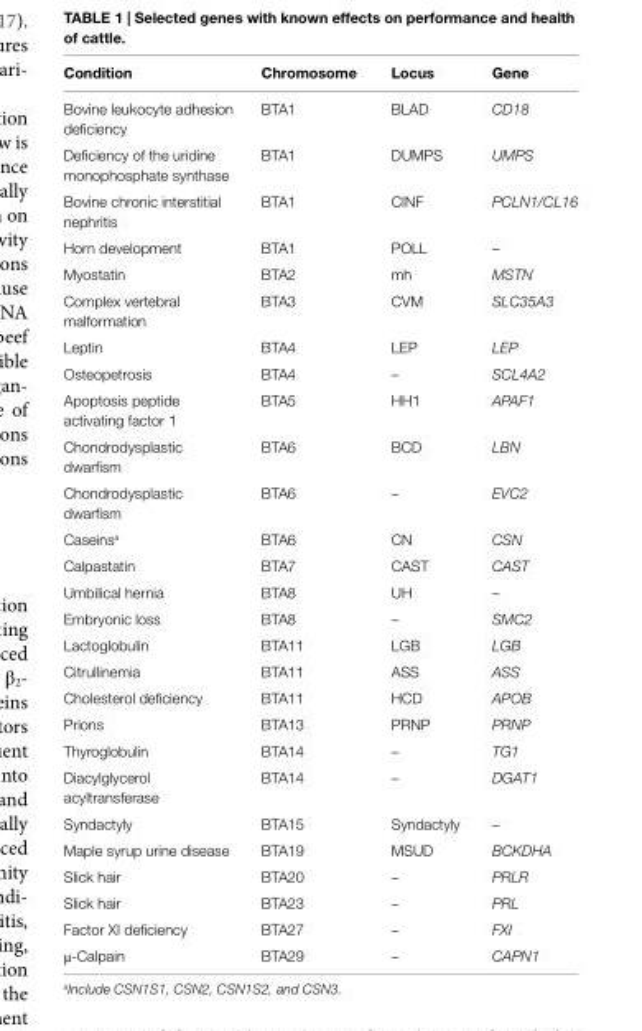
<table><thead><tr><td>Condition</td><td>Chromosome</td><td>locus</td><td>Gene</td></tr></thead><tbody><tr><td>Bovine leukocyte adhesion deficiency</td><td>BTA1</td><td>BLAD</td><td>CD18</td></tr><tr><td>Deficiency of the uridine monophosphate synthase</td><td>BTA1</td><td>DUMPS</td><td>UMPS</td></tr><tr><td>Bovine chronic interstitial nephritis</td><td>BTA1</td><td>CINF</td><td>PCLN1/CL16</td></tr><tr><td>Horn development</td><td>BTA1</td><td>POLL</td><td>–</td></tr><tr><td>Myostatin</td><td>BTA2</td><td>mh</td><td>MSTN</td></tr><tr><td>Complex vertebral malformation</td><td>BTA3</td><td>CVM</td><td>SLC35A3</td></tr><tr><td>Leptin</td><td>BTA4</td><td>LEP</td><td>LEP</td></tr><tr><td>Osteopetrosis</td><td>BTA4</td><td>–</td><td>SCL4A2</td></tr><tr><td>Apoptosis peptide activating factor 1</td><td>BTA5</td><td>HH1</td><td>APAF1</td></tr><tr><td>Chondrodysplastic dwarfism</td><td>BTA6</td><td>BCD</td><td>LBN</td></tr><tr><td>Chondrodysplastic dwarfism</td><td>BTA6</td><td>–</td><td>EVC2</td></tr><tr><td>Caseins<sup>a</sup></td><td>BTA6</td><td>CN</td><td>CSN</td></tr><tr><td>Calpastatin</td><td>BTA7</td><td>CAST</td><td>CAST</td></tr><tr><td>Umbilical hernia</td><td>BTA8</td><td>UH</td><td>–</td></tr><tr><td>Embryonic loss</td><td>BTA8</td><td>–</td><td>SMC2</td></tr><tr><td>Lactoglobulin</td><td>BTA11</td><td>LGB</td><td>LGB</td></tr><tr><td>Citrullinemia</td><td>BTA11</td><td>ASS</td><td>ASS</td></tr><tr><td>Cholesterol deficiency</td><td>BTA11</td><td>HCD</td><td>APOB</td></tr><tr><td>Prions</td><td>BTA13</td><td>PRNP</td><td>PRNP</td></tr><tr><td>Thyroglobulin</td><td>BTA14</td><td>–</td><td>TG1</td></tr><tr><td>Diacylglycerol acyltransferase</td><td>BTA14</td><td>–</td><td>DGAT1</td></tr><tr><td>Syndactyly</td><td>BTA15</td><td>Syndactyly</td><td>–</td></tr><tr><td>Maple syrup urine disease</td><td>BTA19</td><td>MSUD</td><td>BCKDHA</td></tr><tr><td>Slick hair</td><td>BTA20</td><td>–</td><td>PRLR</td></tr><tr><td>Slick hair</td><td>BTA23</td><td>–</td><td>PRL</td></tr><tr><td>Factor XI deficiency</td><td>BTA27</td><td>–</td><td>FXI</td></tr><tr><td>μ-Calpain</td><td>BTA29</td><td>–</td><td>CAPN1</td></tr></tbody></table>